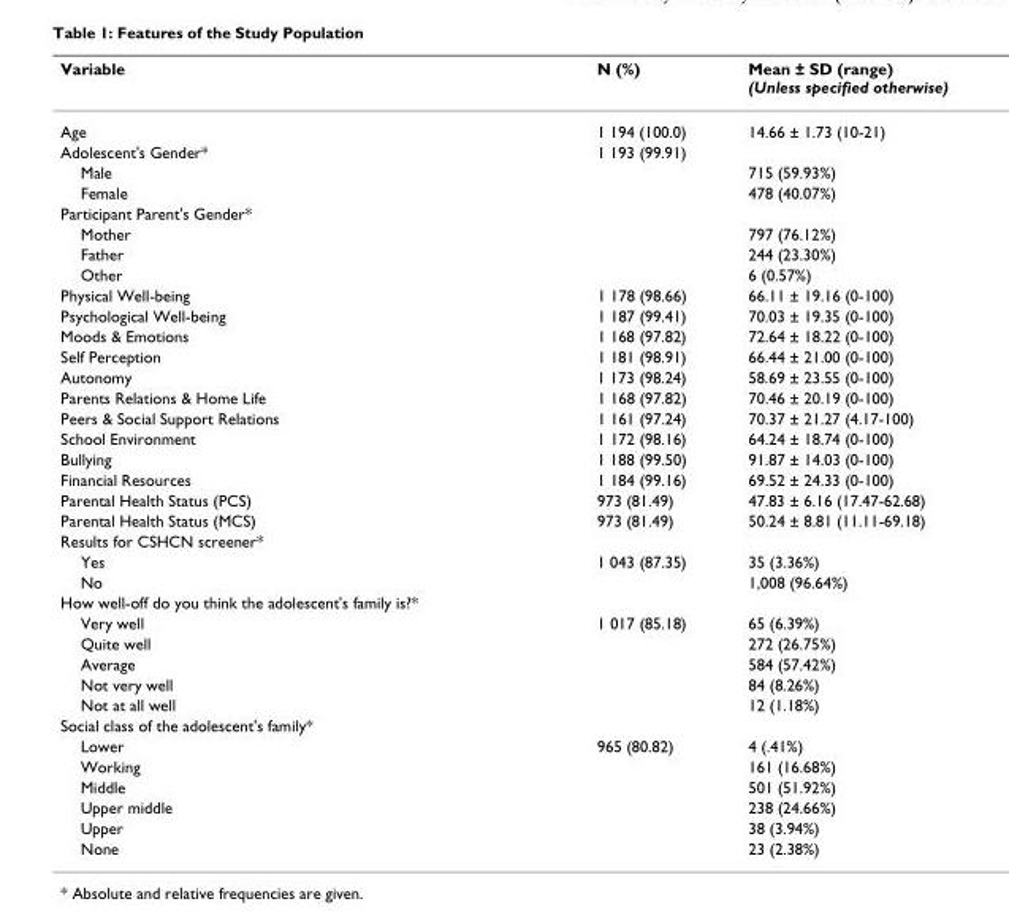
<table><thead><tr><td>Variable</td><td>N (%)</td><td>Mean ± SD (range) (Unless specified otherwise)</td></tr></thead><tbody><tr><td>Age</td><td>1 194 (100.0)</td><td>14.66 ± 1.73 (10-21)</td></tr><tr><td>Adolescent&#x27;s Gender*</td><td>1 193 (99.91)</td><td></td></tr><tr><td>Male</td><td></td><td>715 (59.93%)</td></tr><tr><td>Female</td><td></td><td>478 (40.07%)</td></tr><tr><td colspan="3">Participant Parent&#x27;s Gender*</td></tr><tr><td>Mother</td><td></td><td>797 (76.12%)</td></tr><tr><td>Father</td><td></td><td>244 (23.30%)</td></tr><tr><td>Other</td><td></td><td>6 (0.57%)</td></tr><tr><td>Physical Well-being</td><td>1 178 (98.66)</td><td>66.11 ± 19.16 (0-100)</td></tr><tr><td>Psychological Well-being</td><td>1 187 (99.41)</td><td>70.03 ± 19.35 (0-100)</td></tr><tr><td>Moods &amp; Emotions</td><td>1 168 (97.82)</td><td>72.64 ± 18.22 (0-100)</td></tr><tr><td>Self Perception</td><td>1 181 (98.91)</td><td>66.44 ± 21.00 (0-100)</td></tr><tr><td>Autonomy</td><td>1 173 (98.24)</td><td>58.69 ± 23.55 (0-100)</td></tr><tr><td>Parents Relations &amp; Home Life</td><td>1 168 (97.82)</td><td>70.46 ± 20.19 (0-100)</td></tr><tr><td>Peers &amp; Social Support Relations</td><td>1 161 (97.24)</td><td>70.37 ± 21.27 (4.17-100)</td></tr><tr><td>School Environment</td><td>1 172 (98.16)</td><td>64.24 ± 18.74 (0-100)</td></tr><tr><td>Bullying</td><td>1 188 (99.50)</td><td>91.87 ± 14.03 (0-100)</td></tr><tr><td>Financial Resources</td><td>1 184 (99.16)</td><td>69.52 ± 24.33 (0-100)</td></tr><tr><td>Parental Health Status (PCS)</td><td>973 (81.49)</td><td>47.83 ± 6.16 (17.47-62.68)</td></tr><tr><td>Parental Health Status (MCS)</td><td>973 (81.49)</td><td>50.24 ± 8.81 (11.11-69.18)</td></tr><tr><td colspan="3">Results for CSHCN screener*</td></tr><tr><td>Yes</td><td>1 043 (87.35)</td><td>35 (3.36%)</td></tr><tr><td>No</td><td></td><td>1,008 (96.64%)</td></tr><tr><td colspan="3">How well-off do you think the adolescent&#x27;s family is?*</td></tr><tr><td>Very well</td><td>1 017 (85.18)</td><td>65 (6.39%)</td></tr><tr><td>Quite well</td><td></td><td>272 (26.75%)</td></tr><tr><td>Average</td><td></td><td>584 (57.42%)</td></tr><tr><td>Not very well</td><td></td><td>84 (8.26%)</td></tr><tr><td>Not at all well</td><td></td><td>12 (1.18%)</td></tr><tr><td colspan="3">Social class of the adolescent&#x27;s family*</td></tr><tr><td>Lower</td><td>965 (80.82)</td><td>4 (.41%)</td></tr><tr><td>Working</td><td></td><td>161 (16.68%)</td></tr><tr><td>Middle</td><td></td><td>501 (51.92%)</td></tr><tr><td>Upper middle</td><td></td><td>238 (24.66%)</td></tr><tr><td>Upper</td><td></td><td>38 (3.94%)</td></tr><tr><td>None</td><td></td><td>23 (2.38%)</td></tr></tbody></table>